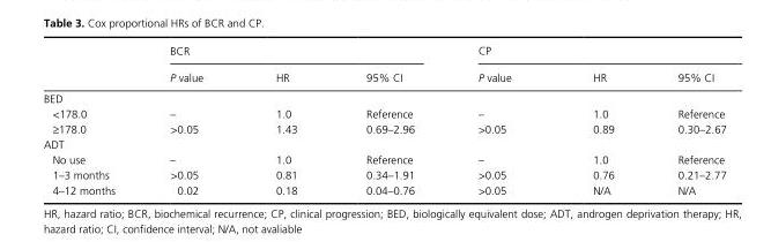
<table><thead><tr><td rowspan="2"></td><td colspan="3">BCR</td><td colspan="3">CP</td></tr><tr><td>P value</td><td>HR</td><td>95% CI</td><td>P value</td><td>HR</td><td>95% CI</td></tr></thead><tbody><tr><td colspan="7">BED</td></tr><tr><td>&lt;178.0</td><td>–</td><td>1.0</td><td>Reference</td><td>–</td><td>1.0</td><td>Reference</td></tr><tr><td>≥178.0</td><td>&gt;0.05</td><td>1.43</td><td>0.69–2.96</td><td>&gt;0.05</td><td>0.89</td><td>0.30–2.67</td></tr><tr><td colspan="7">ADT</td></tr><tr><td>No use</td><td>–</td><td>1.0</td><td>Reference</td><td>–</td><td>1.0</td><td>Reference</td></tr><tr><td>1–3 months</td><td>&gt;0.05</td><td>0.81</td><td>0.34–1.91</td><td>&gt;0.05</td><td>0.76</td><td>0.21–2.77</td></tr><tr><td>4–12 months</td><td>0.02</td><td>0.18</td><td>0.04–0.76</td><td>&gt;0.05</td><td>N/A</td><td>N/A</td></tr></tbody></table>